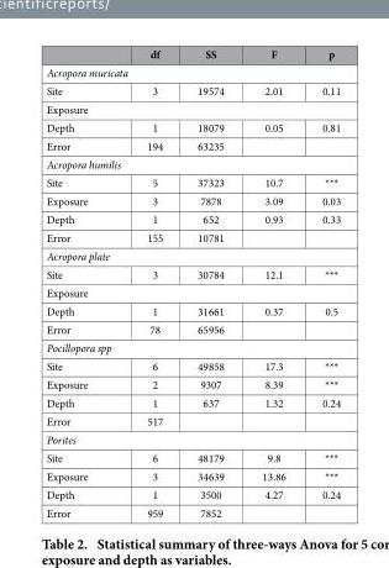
<table><thead><tr><td></td><td>df</td><td>SS</td><td>F</td><td>p</td></tr></thead><tbody><tr><td colspan="5">Acropora muricata</td></tr><tr><td>Site</td><td>3</td><td>19574</td><td>2.01</td><td>0.11</td></tr><tr><td colspan="5">Exposure</td></tr><tr><td>Depth</td><td>1</td><td>18079</td><td>0.05</td><td>0.81</td></tr><tr><td>Error</td><td>194</td><td>63235</td><td></td><td></td></tr><tr><td colspan="5">Acropora humilis</td></tr><tr><td>Site</td><td>5</td><td>37323</td><td>10.7</td><td>***</td></tr><tr><td>Exposure</td><td>3</td><td>7878</td><td>3.09</td><td>0.03</td></tr><tr><td>Depth</td><td>1</td><td>652</td><td>0.93</td><td>0.33</td></tr><tr><td>Error</td><td>155</td><td>10781</td><td></td><td></td></tr><tr><td colspan="5">Acropora plate</td></tr><tr><td>Site</td><td>3</td><td>30784</td><td>12.1</td><td>***</td></tr><tr><td colspan="5">Exposure</td></tr><tr><td>Depth</td><td>1</td><td>31661</td><td>0.37</td><td>0.5</td></tr><tr><td>Error</td><td>78</td><td>65956</td><td></td><td></td></tr><tr><td colspan="5">Pocillopora spp</td></tr><tr><td>Site</td><td>6</td><td>49858</td><td>17.3</td><td>***</td></tr><tr><td>Exposure</td><td>2</td><td>9307</td><td>8.39</td><td>***</td></tr><tr><td>Depth</td><td>1</td><td>637</td><td>1.32</td><td>0.24</td></tr><tr><td>Error</td><td>517</td><td></td><td></td><td></td></tr><tr><td colspan="5">Porites</td></tr><tr><td>Site</td><td>6</td><td>48179</td><td>9.8</td><td>***</td></tr><tr><td>Exposure</td><td>3</td><td>34639</td><td>13.86</td><td>***</td></tr><tr><td>Depth</td><td>1</td><td>3500</td><td>4.27</td><td>0.24</td></tr><tr><td>Error</td><td>959</td><td>7852</td><td></td><td></td></tr></tbody></table>